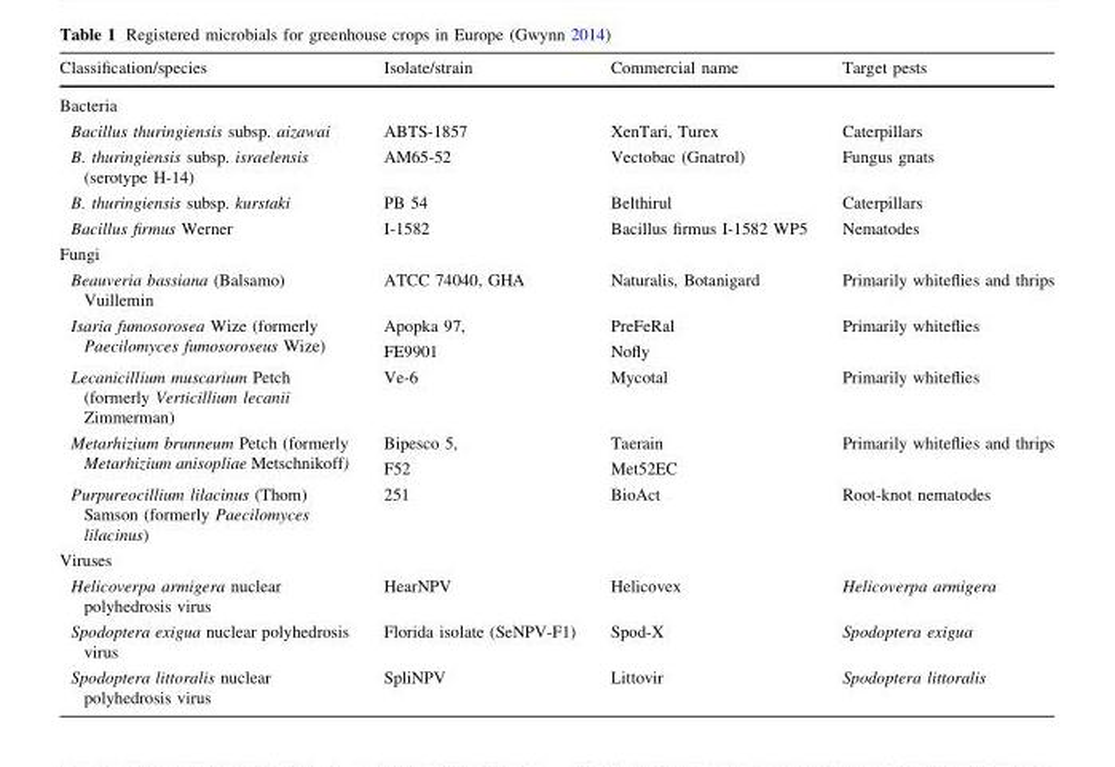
<table><thead><tr><td>Classification/species</td><td>Isolate/strain</td><td>Commercial name</td><td>Target pests</td></tr></thead><tbody><tr><td colspan="4">Bacteria</td></tr><tr><td>Bacillus thuringiensis subsp. aizawai</td><td>ABTS-1857</td><td>XenTari, Turex</td><td>Caterpillars</td></tr><tr><td>B. thuringiensis subsp. israelensis (serotype H-14)</td><td>AM65-52</td><td>Vectobac (Gnatrol)</td><td>Fungus gnats</td></tr><tr><td>B. thuringiensis subsp. kurstaki</td><td>PB 54</td><td>Belthirul</td><td>Caterpillars</td></tr><tr><td>Bacillus firmus Werner</td><td>I-1582</td><td>Bacillus firmus I-1582 WP5</td><td>Nematodes</td></tr><tr><td colspan="4">Fungi</td></tr><tr><td>Beauveria bassiana (Balsamo) Vuillemin</td><td>ATCC 74040, GHA</td><td>Naturalis, Botanigard</td><td>Primarily whiteflies and thrips</td></tr><tr><td>Isaria fumosorosea Wize (formerly Paecilomyces fumosoroseus Wize)</td><td>Apopka 97, FE9901</td><td>PreFeRal Nofly</td><td>Primarily whiteflies</td></tr><tr><td>Lecanicillium muscarium Petch (formerly Verticillium lecanii Zimmerman)</td><td>Ve-6</td><td>Mycotal</td><td>Primarily whiteflies</td></tr><tr><td>Metarhizium brunneum Petch (formerly Metarhizium anisopliae Metschnikoff)</td><td>Bipesco 5, F52</td><td>Taerain Met52EC</td><td>Primarily whiteflies and thrips</td></tr><tr><td>Purpureocillium lilacinus (Thom) Samson (formerly Paecilomyces lilacinus)</td><td>251</td><td>BioAct</td><td>Root-knot nematodes</td></tr><tr><td colspan="4">Viruses</td></tr><tr><td>Helicoverpa armigera nuclear polyhedrosis virus</td><td>HearNPV</td><td>Helicovex</td><td>Helicoverpa armigera</td></tr><tr><td>Spodoptera exigua nuclear polyhedrosis virus</td><td>Florida isolate (SeNPV-F1)</td><td>Spod-X</td><td>Spodoptera exigua</td></tr><tr><td>Spodoptera littoralis nuclear polyhedrosis virus</td><td>SpliNPV</td><td>Littovir</td><td>Spodoptera littoralis</td></tr></tbody></table>